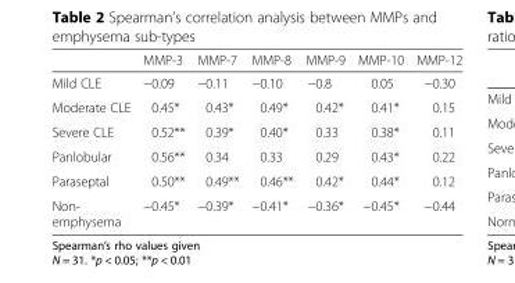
<table><thead><tr><td></td><td>MMP-3</td><td>MMP-7</td><td>MMP-8</td><td>MMP-9</td><td>MMP-10</td><td>MMP-12</td></tr></thead><tbody><tr><td>Mild CLE</td><td>−0.09</td><td>−0.11</td><td>−0.10</td><td>−0.8</td><td>0.05</td><td>−0.30</td></tr><tr><td>Moderate CLE</td><td>0.45*</td><td>0.43*</td><td>0.49*</td><td>0.42*</td><td>0.41*</td><td>0.15</td></tr><tr><td>Severe CLE</td><td>0.52**</td><td>0.39*</td><td>0.40*</td><td>0.33</td><td>0.38*</td><td>0.11</td></tr><tr><td>Panlobular</td><td>0.56**</td><td>0.34</td><td>0.33</td><td>0.29</td><td>0.43*</td><td>0.22</td></tr><tr><td>Paraseptal</td><td>0.50**</td><td>0.49**</td><td>0.46**</td><td>0.42*</td><td>0.44*</td><td>0.12</td></tr><tr><td>Non- emphysema</td><td>−0.45*</td><td>−0.39*</td><td>−0.41*</td><td>−0.36*</td><td>−0.45*</td><td>−0.44</td></tr></tbody></table>